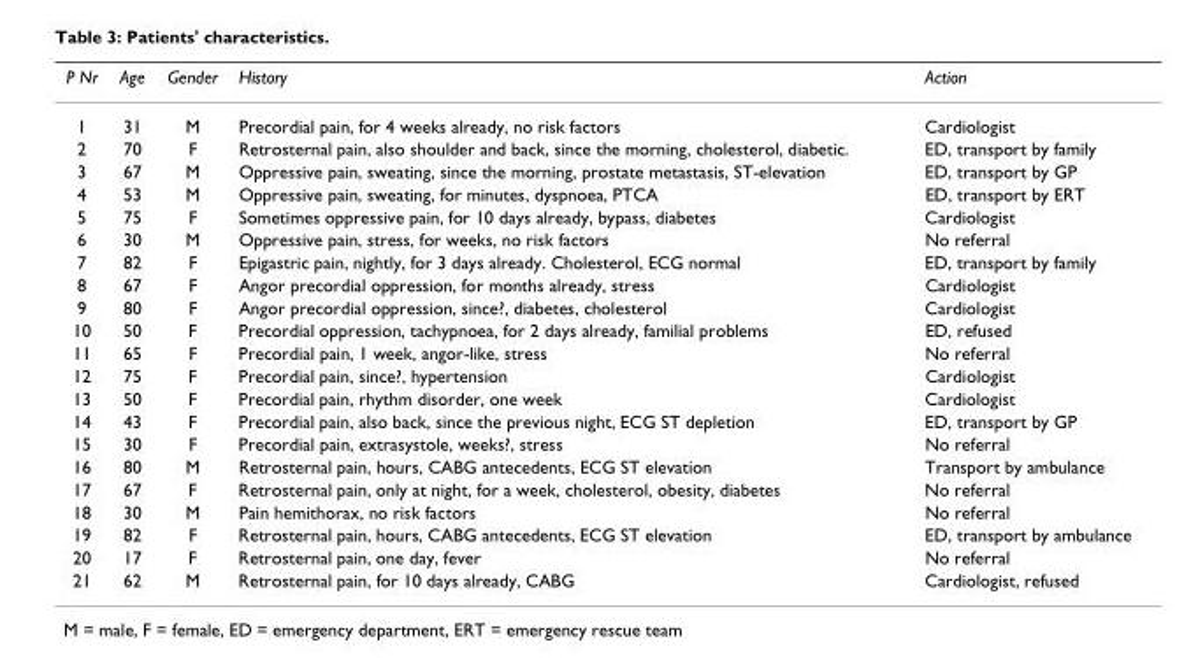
<table><thead><tr><td>P Nr</td><td>Age</td><td>Gender</td><td>History</td><td>Action</td></tr></thead><tbody><tr><td>1</td><td>31</td><td>M</td><td>Precordial pain, for 4 weeks already, no risk factors</td><td>Cardiologist</td></tr><tr><td>2</td><td>70</td><td>F</td><td>Retrosternal pain, also shoulder and back, since the morning, cholesterol, diabetic.</td><td>ED, transport by family</td></tr><tr><td>3</td><td>67</td><td>M</td><td>Oppressive pain, sweating, since the morning, prostate metastasis, ST-elevation</td><td>ED, transport by GP</td></tr><tr><td>4</td><td>53</td><td>M</td><td>Oppressive pain, sweating, for minutes, dyspnoea, PTCA</td><td>ED, transport by ERT</td></tr><tr><td>5</td><td>75</td><td>F</td><td>Sometimes oppressive pain, for 10 days already, bypass, diabetes</td><td>Cardiologist</td></tr><tr><td>6</td><td>30</td><td>M</td><td>Oppressive pain, stress, for weeks, no risk factors</td><td>No referral</td></tr><tr><td>7</td><td>82</td><td>F</td><td>Epigastric pain, nightly, for 3 days already. Cholesterol, ECG normal</td><td>ED, transport by family</td></tr><tr><td>8</td><td>67</td><td>F</td><td>Angor precordial oppression, for months already, stress</td><td>Cardiologist</td></tr><tr><td>9</td><td>80</td><td>F</td><td>Angor precordial oppression, since?, diabetes, cholesterol</td><td>Cardiologist</td></tr><tr><td>10</td><td>50</td><td>F</td><td>Precordial oppression, tachypnoea, for 2 days already, familial problems</td><td>ED, refused</td></tr><tr><td>11</td><td>65</td><td>F</td><td>Precordial pain, 1 week, angor-like, stress</td><td>No referral</td></tr><tr><td>12</td><td>75</td><td>F</td><td>Precordial pain, since?, hypertension</td><td>Cardiologist</td></tr><tr><td>13</td><td>50</td><td>F</td><td>Precordial pain, rhythm disorder, one week</td><td>Cardiologist</td></tr><tr><td>14</td><td>43</td><td>F</td><td>Precordial pain, also back, since the previous night, ECG ST depletion</td><td>ED, transport by GP</td></tr><tr><td>15</td><td>30</td><td>F</td><td>Precordial pain, extrasystole, weeks?, stress</td><td>No referral</td></tr><tr><td>16</td><td>80</td><td>M</td><td>Retrosternal pain, hours, CABG antecedents, ECG ST elevation</td><td>Transport by ambulance</td></tr><tr><td>17</td><td>67</td><td>F</td><td>Retrosternal pain, only at night, for a week, cholesterol, obesity, diabetes</td><td>No referral</td></tr><tr><td>18</td><td>30</td><td>M</td><td>Pain hemithorax, no risk factors</td><td>No referral</td></tr><tr><td>19</td><td>82</td><td>F</td><td>Retrosternal pain, hours, CABG antecedents, ECG ST elevation</td><td>ED, transport by ambulance</td></tr><tr><td>20</td><td>17</td><td>F</td><td>Retrosternal pain, one day, fever</td><td>No referral</td></tr><tr><td>21</td><td>62</td><td>M</td><td>Retrosternal pain, for 10 days already, CABG</td><td>Cardiologist, refused</td></tr></tbody></table>